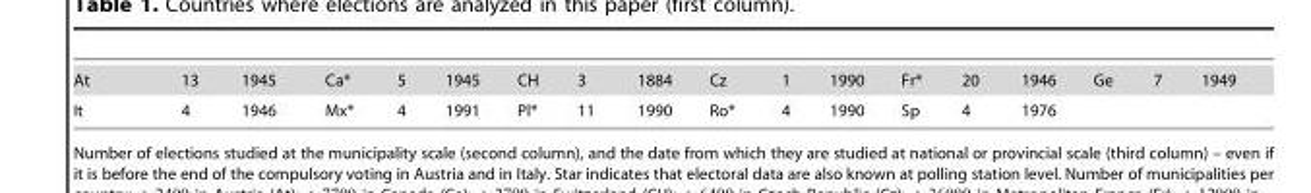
<table><tbody><tr><td>At</td><td>13</td><td>1945</td><td>Ca*</td><td>5</td><td>1945</td><td>CH</td><td>3</td><td>1884</td><td>Cz</td><td>1</td><td>1990</td><td>Fr*</td><td>20</td><td>1946</td><td>Ge</td><td>7</td><td>1949</td></tr><tr><td>It</td><td>4</td><td>1946</td><td>Mx*</td><td>4</td><td>1991</td><td>Pl*</td><td>11</td><td>1990</td><td>Ro*</td><td>4</td><td>1990</td><td>Sp</td><td>4</td><td>1976</td><td></td><td></td><td></td></tr></tbody></table>